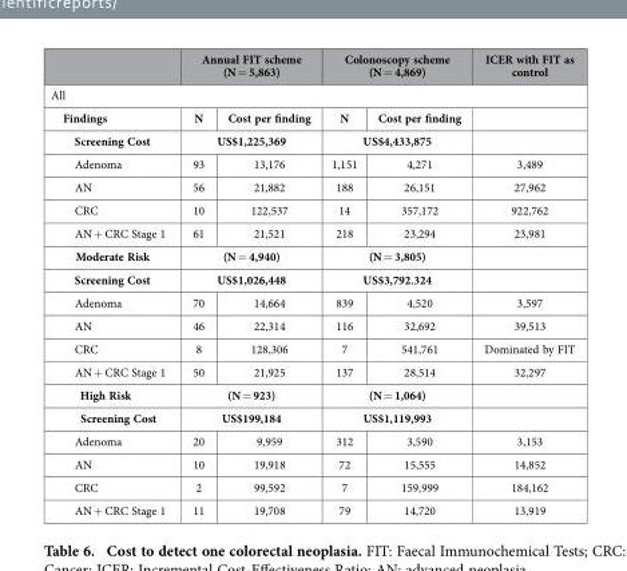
<table><thead><tr><td></td><td colspan="2">Annual FIT scheme (N = 5,863)</td><td colspan="2">Colonoscopy scheme (N = 4,869)</td><td>ICER with FIT as control</td></tr><tr><td colspan="6">All</td></tr><tr><td>Findings</td><td>N</td><td>Cost per finding</td><td>N</td><td>Cost per finding</td><td></td></tr></thead><tbody><tr><td>Screening Cost</td><td colspan="2">US$1,225,369</td><td colspan="2">US$4,433,875</td><td></td></tr><tr><td>Adenoma</td><td>93</td><td>13,176</td><td>1,151</td><td>4,271</td><td>3,489</td></tr><tr><td>AN</td><td>56</td><td>21,882</td><td>188</td><td>26,151</td><td>27,962</td></tr><tr><td>CRC</td><td>10</td><td>122,537</td><td>14</td><td>357,172</td><td>922,762</td></tr><tr><td>AN + CRC Stage 1</td><td>61</td><td>21,521</td><td>218</td><td>23,294</td><td>23,981</td></tr><tr><td>Moderate Risk</td><td colspan="2">(N = 4,940)</td><td colspan="2">(N = 3,805)</td><td></td></tr><tr><td>Screening Cost</td><td colspan="2">US$1,026,448</td><td colspan="2">US$3,792.324</td><td></td></tr><tr><td>Adenoma</td><td>70</td><td>14,664</td><td>839</td><td>4,520</td><td>3,597</td></tr><tr><td>AN</td><td>46</td><td>22,314</td><td>116</td><td>32,692</td><td>39,513</td></tr><tr><td>CRC</td><td>8</td><td>128,306</td><td>7</td><td>541,761</td><td>Dominated by FIT</td></tr><tr><td>AN + CRC Stage 1</td><td>50</td><td>21,925</td><td>137</td><td>28,514</td><td>32,297</td></tr><tr><td>High Risk</td><td colspan="2">(N = 923)</td><td colspan="2">(N = 1,064)</td><td></td></tr><tr><td>Screening Cost</td><td colspan="2">US$199,184</td><td colspan="2">US$1,119,993</td><td></td></tr><tr><td>Adenoma</td><td>20</td><td>9,959</td><td>312</td><td>3,590</td><td>3,153</td></tr><tr><td>AN</td><td>10</td><td>19,918</td><td>72</td><td>15,555</td><td>14,852</td></tr><tr><td>CRC</td><td>2</td><td>99,592</td><td>7</td><td>159,999</td><td>184,162</td></tr><tr><td>AN + CRC Stage 1</td><td>11</td><td>19,708</td><td>79</td><td>14,720</td><td>13,919</td></tr></tbody></table>